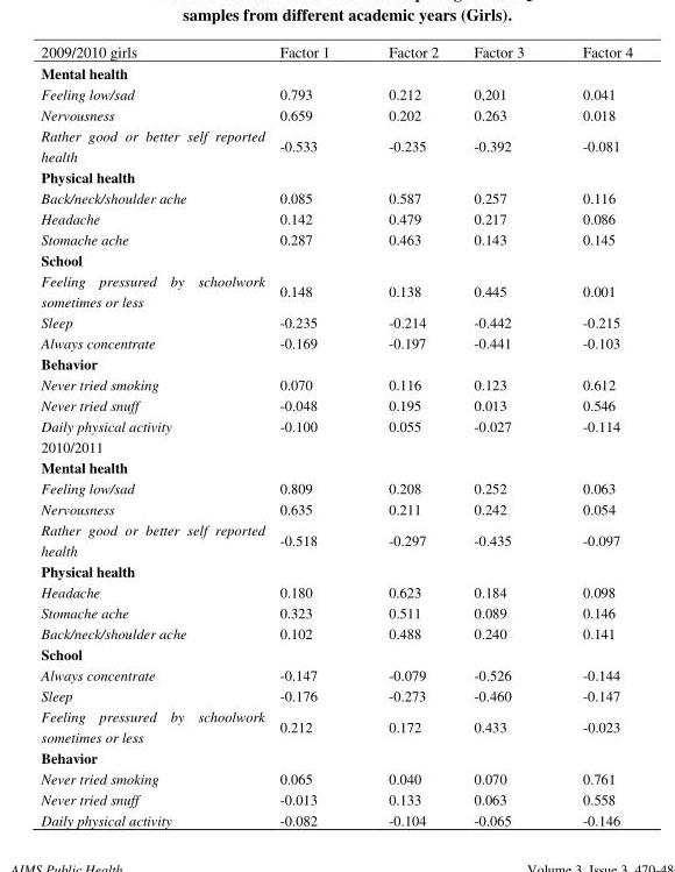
<table><thead><tr><td>2009/2010 girls</td><td>Factor 1</td><td>Factor 2</td><td>Factor 3</td><td>Factor 4</td></tr></thead><tbody><tr><td colspan="5">Mental health</td></tr><tr><td>Feeling low/sad</td><td>0.793</td><td>0.212</td><td>0,201</td><td>0.041</td></tr><tr><td>Nervousness</td><td>0.659</td><td>0.202</td><td>0.263</td><td>0.018</td></tr><tr><td>Rather good or better self reported health</td><td>-0.533</td><td>-0.235</td><td>-0.392</td><td>-0.081</td></tr><tr><td colspan="5">Physical health</td></tr><tr><td>Back/neck/shoulder ache</td><td>0.085</td><td>0.587</td><td>0.257</td><td>0.116</td></tr><tr><td>Headache</td><td>0.142</td><td>0.479</td><td>0.217</td><td>0.086</td></tr><tr><td>Stomache ache</td><td>0.287</td><td>0.463</td><td>0.143</td><td>0.145</td></tr><tr><td colspan="5">School</td></tr><tr><td>Feeling pressured by schoolwork sometimes or less</td><td>0.148</td><td>0.138</td><td>0.445</td><td>0.001</td></tr><tr><td>Sleep</td><td>-0.235</td><td>-0.214</td><td>-0.442</td><td>-0.215</td></tr><tr><td>Always concentrate</td><td>-0.169</td><td>-0.197</td><td>-0.441</td><td>-0.103</td></tr><tr><td colspan="5">Behavior</td></tr><tr><td>Never tried smoking</td><td>0.070</td><td>0.116</td><td>0.123</td><td>0.612</td></tr><tr><td>Never tried snuff</td><td>-0.048</td><td>0.195</td><td>0.013</td><td>0.546</td></tr><tr><td>Daily physical activity</td><td>-0.100</td><td>0.055</td><td>-0.027</td><td>-0.114</td></tr><tr><td colspan="5">2010/2011</td></tr><tr><td colspan="5">Mental health</td></tr><tr><td>Feeling low/sad</td><td>0.809</td><td>0.208</td><td>0.252</td><td>0.063</td></tr><tr><td>Nervousness</td><td>0.635</td><td>0.211</td><td>0.242</td><td>0.054</td></tr><tr><td>Rather good or better self reported health</td><td>-0.518</td><td>-0.297</td><td>-0.435</td><td>-0.097</td></tr><tr><td colspan="5">Physical health</td></tr><tr><td>Headache</td><td>0.180</td><td>0.623</td><td>0.184</td><td>0.098</td></tr><tr><td>Stomache ache</td><td>0.323</td><td>0.511</td><td>0.089</td><td>0.146</td></tr><tr><td>Back/neck/shoulder ache</td><td>0.102</td><td>0.488</td><td>0.240</td><td>0.141</td></tr><tr><td colspan="5">School</td></tr><tr><td>Always concentrate</td><td>-0.147</td><td>-0.079</td><td>-0.526</td><td>-0.144</td></tr><tr><td>Sleep</td><td>-0.176</td><td>-0.273</td><td>-0.460</td><td>-0.147</td></tr><tr><td>Feeling pressured by schoolwork sometimes or less</td><td>0.212</td><td>0.172</td><td>0.433</td><td>-0.023</td></tr><tr><td colspan="5">Behavior</td></tr><tr><td>Never tried smoking</td><td>0.065</td><td>0.040</td><td>0.070</td><td>0.761</td></tr><tr><td>Never tried snuff</td><td>-0.013</td><td>0.133</td><td>0.063</td><td>0.558</td></tr><tr><td>Daily physical activity</td><td>-0.082</td><td>-0.104</td><td>-0.065</td><td>-0.146</td></tr></tbody></table>